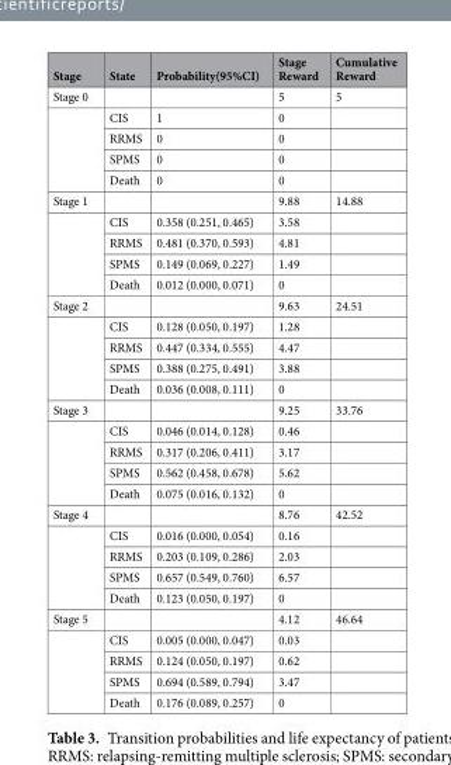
<table><thead><tr><td>Stage</td><td>State</td><td>Probability(95%CI)</td><td>Stage Reward</td><td>Cumulative Reward</td></tr></thead><tbody><tr><td rowspan="5">Stage 0</td><td></td><td></td><td>5</td><td>5</td></tr><tr><td>CIS</td><td>1</td><td>0</td><td></td></tr><tr><td>RRMS</td><td>0</td><td>0</td><td></td></tr><tr><td>SPMS</td><td>0</td><td>0</td><td></td></tr><tr><td>Death</td><td>0</td><td>0</td><td></td></tr><tr><td rowspan="5">Stage 1</td><td></td><td></td><td>9.88</td><td>14.88</td></tr><tr><td>CIS</td><td>0.358 (0.251, 0.465)</td><td>3.58</td><td></td></tr><tr><td>RRMS</td><td>0.481 (0.370, 0.593)</td><td>4.81</td><td></td></tr><tr><td>SPMS</td><td>0.149 (0.069, 0.227)</td><td>1.49</td><td></td></tr><tr><td>Death</td><td>0.012 (0.000, 0.071)</td><td>0</td><td></td></tr><tr><td rowspan="5">Stage 2</td><td></td><td></td><td>9.63</td><td>24.51</td></tr><tr><td>CIS</td><td>0.128 (0.050, 0.197)</td><td>1.28</td><td></td></tr><tr><td>RRMS</td><td>0.447 (0.334, 0.555)</td><td>4.47</td><td></td></tr><tr><td>SPMS</td><td>0.388 (0.275, 0.491)</td><td>3.88</td><td></td></tr><tr><td>Death</td><td>0.036 (0.008, 0.111)</td><td>0</td><td></td></tr><tr><td rowspan="5">Stage 3</td><td></td><td></td><td>9.25</td><td>33.76</td></tr><tr><td>CIS</td><td>0.046 (0.014, 0.128)</td><td>0.46</td><td></td></tr><tr><td>RRMS</td><td>0.317 (0.206, 0.411)</td><td>3.17</td><td></td></tr><tr><td>SPMS</td><td>0.562 (0.458, 0.678)</td><td>5.62</td><td></td></tr><tr><td>Death</td><td>0.075 (0.016, 0.132)</td><td>0</td><td></td></tr><tr><td rowspan="5">Stage 4</td><td></td><td></td><td>8.76</td><td>42.52</td></tr><tr><td>CIS</td><td>0.016 (0.000, 0.054)</td><td>0.16</td><td></td></tr><tr><td>RRMS</td><td>0.203 (0.109, 0.286)</td><td>2.03</td><td></td></tr><tr><td>SPMS</td><td>0.657 (0.549, 0.760)</td><td>6.57</td><td></td></tr><tr><td>Death</td><td>0.123 (0.050, 0.197)</td><td>0</td><td></td></tr><tr><td rowspan="5">Stage 5</td><td></td><td></td><td>4.12</td><td>46.64</td></tr><tr><td>CIS</td><td>0.005 (0.000, 0.047)</td><td>0.03</td><td></td></tr><tr><td>RRMS</td><td>0.124 (0.050, 0.197)</td><td>0.62</td><td></td></tr><tr><td>SPMS</td><td>0.694 (0.589, 0.794)</td><td>3.47</td><td></td></tr><tr><td>Death</td><td>0.176 (0.089, 0.257)</td><td>0</td><td></td></tr></tbody></table>